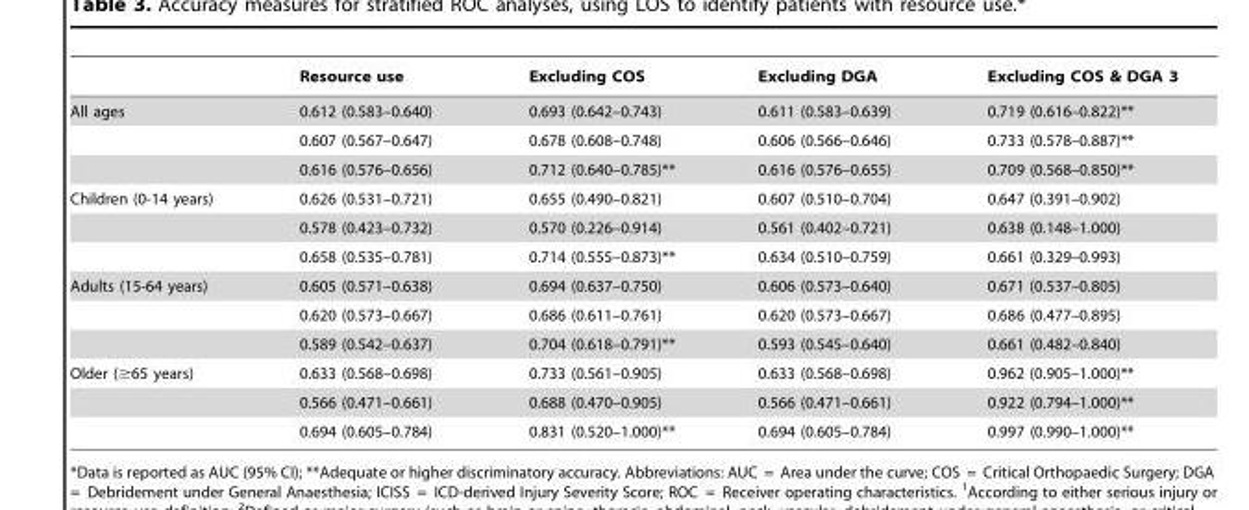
<table><thead><tr><td></td><td>Resource use</td><td>Excluding COS</td><td>Excluding DGA</td><td>Excluding COS &amp; DGA 3</td></tr></thead><tbody><tr><td rowspan="3">All ages</td><td>0.612 (0.583–0.640)</td><td>0.693 (0.642–0.743)</td><td>0.611 (0.583–0.639)</td><td>0.719 (0.616–0.822)**</td></tr><tr><td>0.607 (0.567–0.647)</td><td>0.678 (0.608–0.748)</td><td>0.606 (0.566–0.646)</td><td>0.733 (0.578–0.887)**</td></tr><tr><td>0.616 (0.576–0.656)</td><td>0.712 (0.640–0.785)**</td><td>0.616 (0.576–0.655)</td><td>0.709 (0.568–0.850)**</td></tr><tr><td rowspan="3">Children (0-14 years)</td><td>0.626 (0.531–0.721)</td><td>0.655 (0.490–0.821)</td><td>0.607 (0.510–0.704)</td><td>0.647 (0.391–0.902)</td></tr><tr><td>0.578 (0.423–0.732)</td><td>0.570 (0.226–0.914)</td><td>0.561 (0.402–0.721)</td><td>0.638 (0.148–1.000)</td></tr><tr><td>0.658 (0.535–0.781)</td><td>0.714 (0.555–0.873)**</td><td>0.634 (0.510–0.759)</td><td>0.661 (0.329–0.993)</td></tr><tr><td rowspan="3">Adults (15-64 years)</td><td>0.605 (0.571–0.638)</td><td>0.694 (0.637–0.750)</td><td>0.606 (0.573–0.640)</td><td>0.671 (0.537–0.805)</td></tr><tr><td>0.620 (0.573–0.667)</td><td>0.686 (0.611–0.761)</td><td>0.620 (0.573–0.667)</td><td>0.686 (0.477–0.895)</td></tr><tr><td>0.589 (0.542–0.637)</td><td>0.704 (0.618–0.791)**</td><td>0.593 (0.545–0.640)</td><td>0.661 (0.482–0.840)</td></tr><tr><td rowspan="3">Older (≥65 years)</td><td>0.633 (0.568–0.698)</td><td>0.733 (0.561–0.905)</td><td>0.633 (0.568–0.698)</td><td>0.962 (0.905–1.000)**</td></tr><tr><td>0.566 (0.471–0.661)</td><td>0.688 (0.470–0.905)</td><td>0.566 (0.471–0.661)</td><td>0.922 (0.794–1.000)**</td></tr><tr><td>0.694 (0.605–0.784)</td><td>0.831 (0.520–1.000)**</td><td>0.694 (0.605–0.784)</td><td>0.997 (0.990–1.000)**</td></tr></tbody></table>